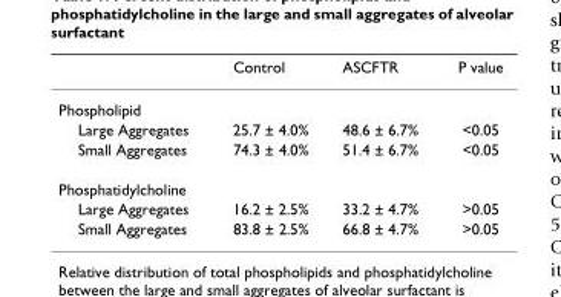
<table><thead><tr><td></td><td>Control</td><td>ASCFTR</td><td>P value</td></tr></thead><tbody><tr><td colspan="4">Phospholipid</td></tr><tr><td>Large Aggregates</td><td>25.7 ± 4.0%</td><td>48.6 ± 6.7%</td><td>&lt;0.05</td></tr><tr><td>Small Aggregates</td><td>74.3 ± 4.0%</td><td>51.4 ± 6.7%</td><td>&lt;0.05</td></tr><tr><td colspan="4">Phosphatidylcholine</td></tr><tr><td>Large Aggregates</td><td>16.2 ± 2.5%</td><td>33.2 ± 4.7%</td><td>&gt;0.05</td></tr><tr><td>Small Aggregates</td><td>83.8 ± 2.5%</td><td>66.8 ± 4.7%</td><td>&gt;0.05</td></tr></tbody></table>